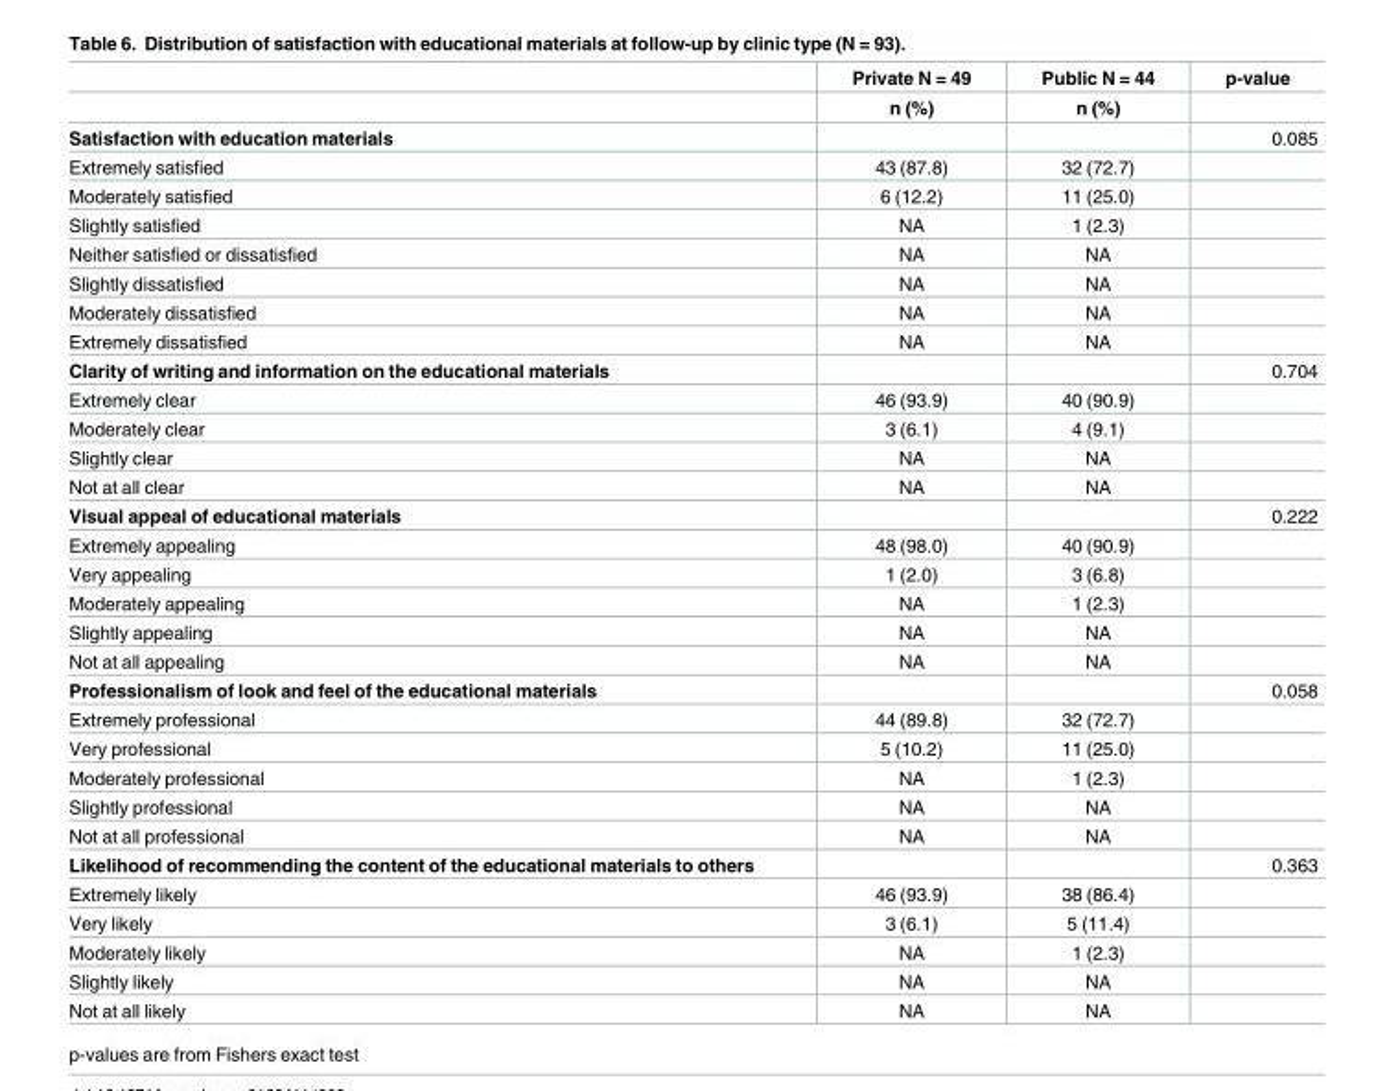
<table><thead><tr><td rowspan="2"></td><td rowspan="2">Private N = 49 n (%)</td><td rowspan="2">Public N = 44 n (%)</td><td rowspan="2">p-value</td></tr><tr></tr></thead><tbody><tr><td>Satisfaction with education materials</td><td></td><td></td><td>0.085</td></tr><tr><td>Extremely satisfied</td><td>43 (87.8)</td><td>32 (72.7)</td><td></td></tr><tr><td>Moderately satisfied</td><td>6 (12.2)</td><td>11 (25.0)</td><td></td></tr><tr><td>Slightly satisfied</td><td>NA</td><td>1 (2.3)</td><td></td></tr><tr><td>Neither satisfied or dissatisfied</td><td>NA</td><td>NA</td><td></td></tr><tr><td>Slightly dissatisfied</td><td>NA</td><td>NA</td><td></td></tr><tr><td>Moderately dissatisfied</td><td>NA</td><td>NA</td><td></td></tr><tr><td>Extremely dissatisfied</td><td>NA</td><td>NA</td><td></td></tr><tr><td>Clarity of writing and information on the educational materials</td><td></td><td></td><td>0.704</td></tr><tr><td>Extremely clear</td><td>46 (93.9)</td><td>40 (90.9)</td><td></td></tr><tr><td>Moderately clear</td><td>3 (6.1)</td><td>4 (9.1)</td><td></td></tr><tr><td>Slightly clear</td><td>NA</td><td>NA</td><td></td></tr><tr><td>Not at all clear</td><td>NA</td><td>NA</td><td></td></tr><tr><td>Visual appeal of educational materials</td><td></td><td></td><td>0.222</td></tr><tr><td>Extremely appealing</td><td>48 (98.0)</td><td>40 (90.9)</td><td></td></tr><tr><td>Very appealing</td><td>1 (2.0)</td><td>3 (6.8)</td><td></td></tr><tr><td>Moderately appealing</td><td>NA</td><td>1 (2.3)</td><td></td></tr><tr><td>Slightly appealing</td><td>NA</td><td>NA</td><td></td></tr><tr><td>Not at all appealing</td><td>NA</td><td>NA</td><td></td></tr><tr><td>Professionalism of look and feel of the educational materials</td><td></td><td></td><td>0.058</td></tr><tr><td>Extremely professional</td><td>44 (89.8)</td><td>32 (72.7)</td><td></td></tr><tr><td>Very professional</td><td>5 (10.2)</td><td>11 (25.0)</td><td></td></tr><tr><td>Moderately professional</td><td>NA</td><td>1 (2.3)</td><td></td></tr><tr><td>Slightly professional</td><td>NA</td><td>NA</td><td></td></tr><tr><td>Not at all professional</td><td>NA</td><td>NA</td><td></td></tr><tr><td>Likelihood of recommending the content of the educational materials to others</td><td></td><td></td><td>0.363</td></tr><tr><td>Extremely likely</td><td>46 (93.9)</td><td>38 (86.4)</td><td></td></tr><tr><td>Very likely</td><td>3 (6.1)</td><td>5 (11.4)</td><td></td></tr><tr><td>Moderately likely</td><td>NA</td><td>1 (2.3)</td><td></td></tr><tr><td>Slightly likely</td><td>NA</td><td>NA</td><td></td></tr><tr><td>Not at all likely</td><td>NA</td><td>NA</td><td></td></tr></tbody></table>